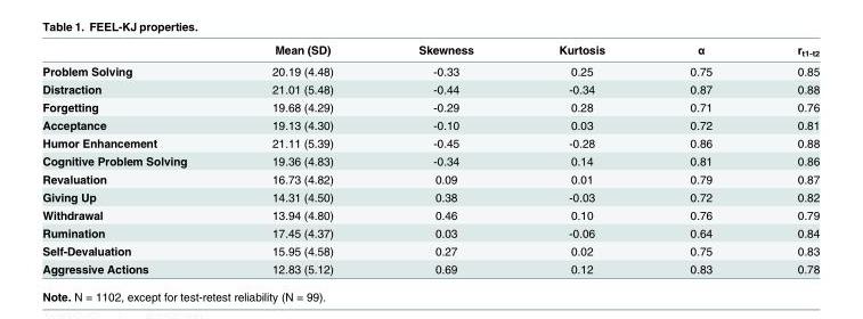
<table><thead><tr><td></td><td>Mean (SD)</td><td>Skewness</td><td>Kurtosis</td><td>α</td><td>r<sub>t1-t2</sub></td></tr></thead><tbody><tr><td>Problem Solving</td><td>20.19 (4.48)</td><td>-0.33</td><td>0.25</td><td>0.75</td><td>0.85</td></tr><tr><td>Distraction</td><td>21.01 (5.48)</td><td>-0.44</td><td>-0.34</td><td>0.87</td><td>0.88</td></tr><tr><td>Forgetting</td><td>19.68 (4.29)</td><td>-0.29</td><td>0.28</td><td>0.71</td><td>0.76</td></tr><tr><td>Acceptance</td><td>19.13 (4.30)</td><td>-0.10</td><td>0.03</td><td>0.72</td><td>0.81</td></tr><tr><td>Humor Enhancement</td><td>21.11 (5.39)</td><td>-0.45</td><td>-0.28</td><td>0.86</td><td>0.88</td></tr><tr><td>Cognitive Problem Solving</td><td>19.36 (4.83)</td><td>-0.34</td><td>0.14</td><td>0.81</td><td>0.86</td></tr><tr><td>Revaluation</td><td>16.73 (4.82)</td><td>0.09</td><td>0.01</td><td>0.79</td><td>0.87</td></tr><tr><td>Giving Up</td><td>14.31 (4.50)</td><td>0.38</td><td>-0.03</td><td>0.72</td><td>0.82</td></tr><tr><td>Withdrawal</td><td>13.94 (4.80)</td><td>0.46</td><td>0.10</td><td>0.76</td><td>0.79</td></tr><tr><td>Rumination</td><td>17.45 (4.37)</td><td>0.03</td><td>-0.06</td><td>0.64</td><td>0.84</td></tr><tr><td>Self-Devaluation</td><td>15.95 (4.58)</td><td>0.27</td><td>0.02</td><td>0.75</td><td>0.83</td></tr><tr><td>Aggressive Actions</td><td>12.83 (5.12)</td><td>0.69</td><td>0.12</td><td>0.83</td><td>0.78</td></tr></tbody></table>